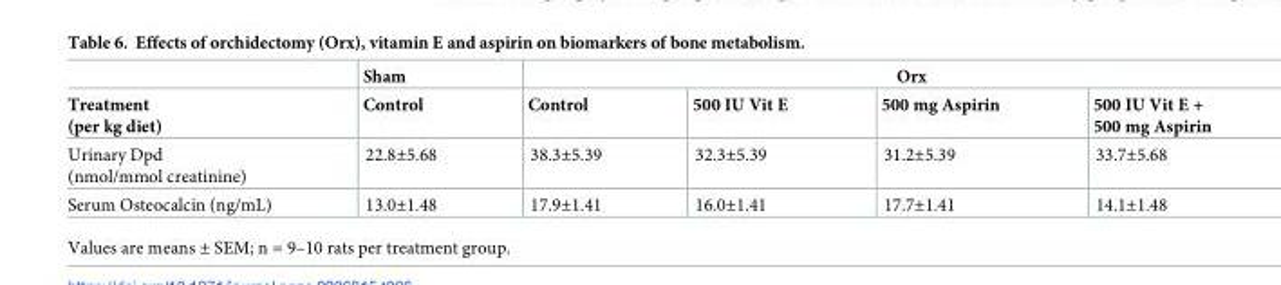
<table><thead><tr><td rowspan="2">Treatment (per kg diet)</td><td rowspan="2">Sham Control</td><td colspan="4">Orx</td></tr><tr><td>Control</td><td>500 IU Vit E</td><td>500 mg Aspirin</td><td>500 IU Vit E + 500 mg Aspirin</td></tr></thead><tbody><tr><td>Urinary Dpd (nmol/mmol creatinine)</td><td>22.8±5.68</td><td>38.3±5.39</td><td>32.3±5.39</td><td>31.2±5.39</td><td>33.7±5.68</td></tr><tr><td>Serum Osteocalcin (ng/mL)</td><td>13.0±1.48</td><td>17.9±1.41</td><td>16.0±1.41</td><td>17.7±1.41</td><td>14.1±1.48</td></tr></tbody></table>